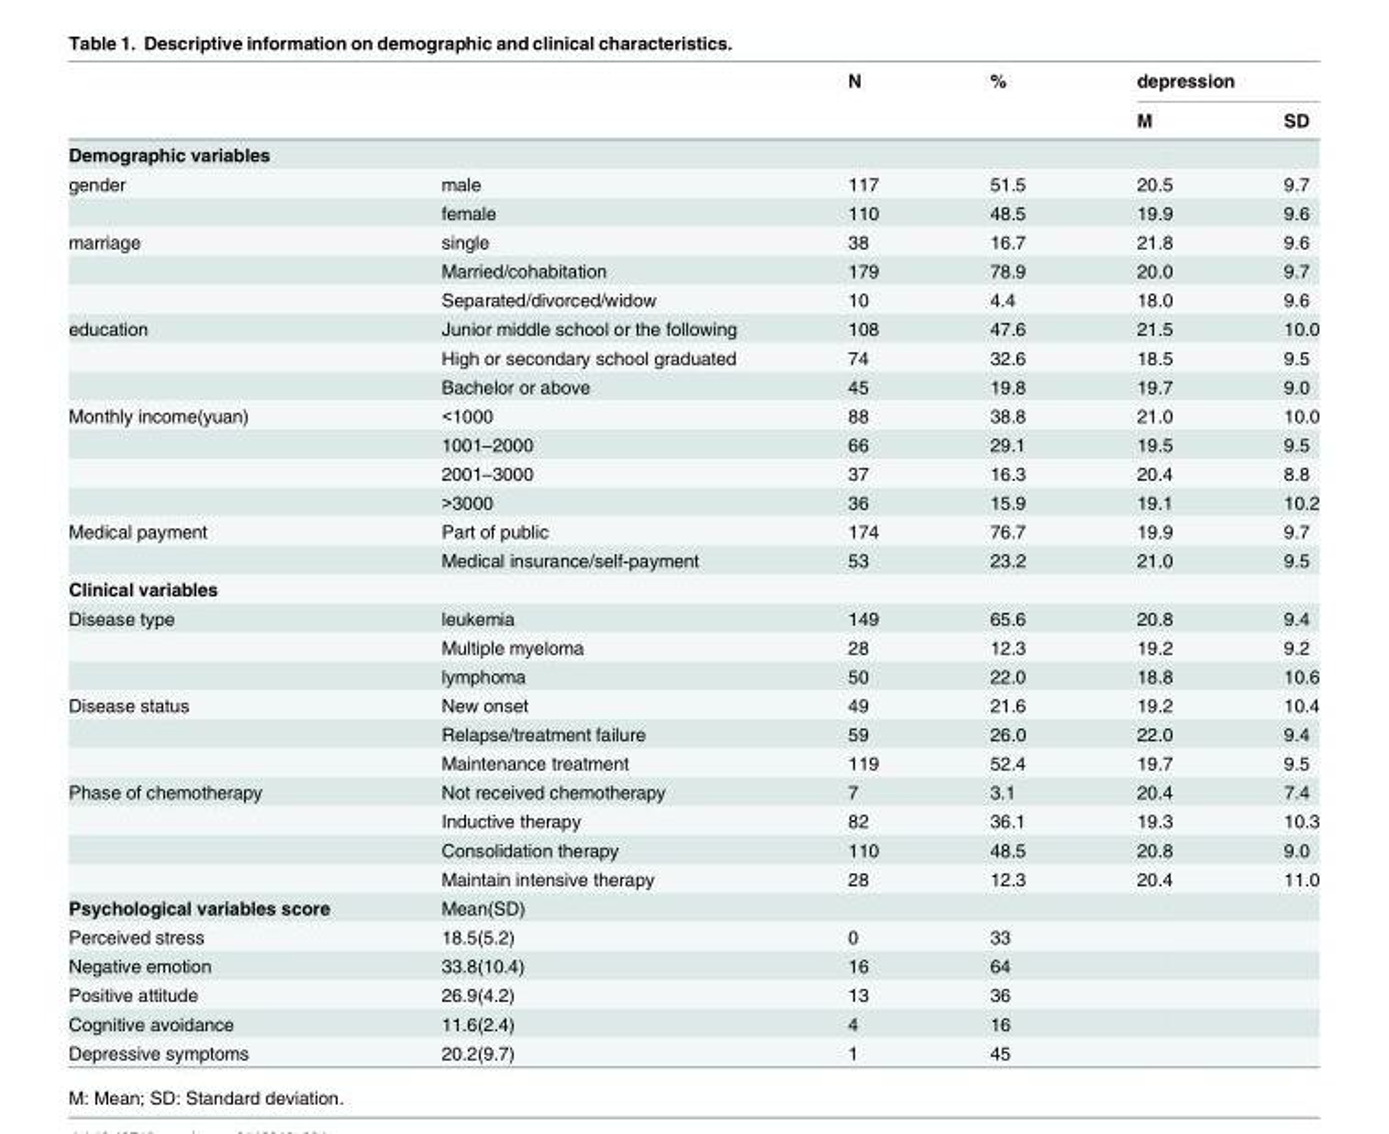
<table><thead><tr><td rowspan="2"></td><td rowspan="2"></td><td rowspan="2">N</td><td rowspan="2">%</td><td colspan="2">depression</td></tr><tr><td>M</td><td>SD</td></tr></thead><tbody><tr><td colspan="6">Demographic variables</td></tr><tr><td rowspan="2">gender</td><td>male</td><td>117</td><td>51.5</td><td>20.5</td><td>9.7</td></tr><tr><td>female</td><td>110</td><td>48.5</td><td>19.9</td><td>9.6</td></tr><tr><td rowspan="3">marriage</td><td>single</td><td>38</td><td>16.7</td><td>21.8</td><td>9.6</td></tr><tr><td>Married/cohabitation</td><td>179</td><td>78.9</td><td>20.0</td><td>9.7</td></tr><tr><td>Separated/divorced/widow</td><td>10</td><td>4.4</td><td>18.0</td><td>9.6</td></tr><tr><td rowspan="3">education</td><td>Junior middle school or the following</td><td>108</td><td>47.6</td><td>21.5</td><td>10.0</td></tr><tr><td>High or secondary school graduated</td><td>74</td><td>32.6</td><td>18.5</td><td>9.5</td></tr><tr><td>Bachelor or above</td><td>45</td><td>19.8</td><td>19.7</td><td>9.0</td></tr><tr><td rowspan="4">Monthly income(yuan)</td><td>&lt;1000</td><td>88</td><td>38.8</td><td>21.0</td><td>10.0</td></tr><tr><td>1001–2000</td><td>66</td><td>29.1</td><td>19.5</td><td>9.5</td></tr><tr><td>2001–3000</td><td>37</td><td>16.3</td><td>20.4</td><td>8.8</td></tr><tr><td>&gt;3000</td><td>36</td><td>15.9</td><td>19.1</td><td>10.2</td></tr><tr><td rowspan="2">Medical payment</td><td>Part of public</td><td>174</td><td>76.7</td><td>19.9</td><td>9.7</td></tr><tr><td>Medical insurance/self-payment</td><td>53</td><td>23.2</td><td>21.0</td><td>9.5</td></tr><tr><td colspan="6">Clinical variables</td></tr><tr><td rowspan="3">Disease type</td><td>leukemia</td><td>149</td><td>65.6</td><td>20.8</td><td>9.4</td></tr><tr><td>Multiple myeloma</td><td>28</td><td>12.3</td><td>19.2</td><td>9.2</td></tr><tr><td>lymphoma</td><td>50</td><td>22.0</td><td>18.8</td><td>10.6</td></tr><tr><td rowspan="3">Disease status</td><td>New onset</td><td>49</td><td>21.6</td><td>19.2</td><td>10.4</td></tr><tr><td>Relapse/treatment failure</td><td>59</td><td>26.0</td><td>22.0</td><td>9.4</td></tr><tr><td>Maintenance treatment</td><td>119</td><td>52.4</td><td>19.7</td><td>9.5</td></tr><tr><td rowspan="4">Phase of chemotherapy</td><td>Not received chemotherapy</td><td>7</td><td>3.1</td><td>20.4</td><td>7.4</td></tr><tr><td>Inductive therapy</td><td>82</td><td>36.1</td><td>19.3</td><td>10.3</td></tr><tr><td>Consolidation therapy</td><td>110</td><td>48.5</td><td>20.8</td><td>9.0</td></tr><tr><td>Maintain intensive therapy</td><td>28</td><td>12.3</td><td>20.4</td><td>11.0</td></tr><tr><td>Psychological variables score</td><td>Mean(SD)</td><td></td><td></td><td></td><td></td></tr><tr><td>Perceived stress</td><td>18.5(5.2)</td><td>0</td><td>33</td><td></td><td></td></tr><tr><td>Negative emotion</td><td>33.8(10.4)</td><td>16</td><td>64</td><td></td><td></td></tr><tr><td>Positive attitude</td><td>26.9(4.2)</td><td>13</td><td>36</td><td></td><td></td></tr><tr><td>Cognitive avoidance</td><td>11.6(2.4)</td><td>4</td><td>16</td><td></td><td></td></tr><tr><td>Depressive symptoms</td><td>20.2(9.7)</td><td>1</td><td>45</td><td></td><td></td></tr></tbody></table>